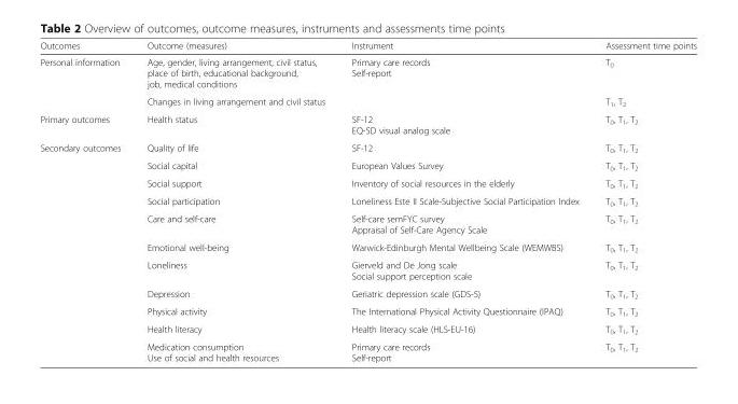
<table><thead><tr><td>Outcomes</td><td>Outcome (measures)</td><td>Instrument</td><td>Assessment time points</td></tr></thead><tbody><tr><td rowspan="2">Personal information</td><td>Age, gender, living arrangement, civil status, place of birth, educational background, job, medical conditions</td><td>Primary care records Self-report</td><td>T<sub>0</sub></td></tr><tr><td>Changes in living arrangement and civil status</td><td></td><td>T<sub>1</sub>, T<sub>2</sub></td></tr><tr><td>Primary outcomes</td><td>Health status</td><td>SF-12 EQ-5D visual analog scale</td><td>T<sub>0</sub>, T<sub>1</sub>, T<sub>2</sub></td></tr><tr><td rowspan="11">Secondary outcomes</td><td>Quality of life</td><td>SF-12</td><td>T<sub>0</sub>, T<sub>1</sub>, T<sub>2</sub></td></tr><tr><td>Social capital</td><td>European Values Survey</td><td>T<sub>0</sub>, T<sub>1</sub>, T<sub>2</sub></td></tr><tr><td>Social support</td><td>Inventory of social resources in the elderly</td><td>T<sub>0</sub>, T<sub>1</sub>, T<sub>2</sub></td></tr><tr><td>Social participation</td><td>Loneliness Este II Scale-Subjective Social Participation Index</td><td>T<sub>0</sub>, T<sub>1</sub>, T<sub>2</sub></td></tr><tr><td>Care and self-care</td><td>Self-care semFYC survey Appraisal of Self-Care Agency Scale</td><td>T<sub>0</sub>, T<sub>1</sub>, T<sub>2</sub></td></tr><tr><td>Emotional well-being</td><td>Warwick-Edinburgh Mental Wellbeing Scale (WEMWBS)</td><td>T<sub>0</sub>, T<sub>1</sub>, T<sub>2</sub></td></tr><tr><td>Loneliness</td><td>Gierveld and De Jong scale Social support perception scale</td><td>T<sub>0</sub>, T<sub>1</sub>, T<sub>2</sub></td></tr><tr><td>Depression</td><td>Geriatric depression scale (GDS-5)</td><td>T<sub>0</sub>, T<sub>1</sub>, T<sub>2</sub></td></tr><tr><td>Physical activity</td><td>The International Physical Activity Questionnaire (IPAQ)</td><td>T<sub>0</sub>, T<sub>1</sub>, T<sub>2</sub></td></tr><tr><td>Health literacy</td><td>Health literacy scale (HLS-EU-16)</td><td>T<sub>0</sub>, T<sub>1</sub>, T<sub>2</sub></td></tr><tr><td>Medication consumption Use of social and health resources</td><td>Primary care records Self-report</td><td>T<sub>0</sub>, T<sub>1</sub>, T<sub>2</sub></td></tr></tbody></table>